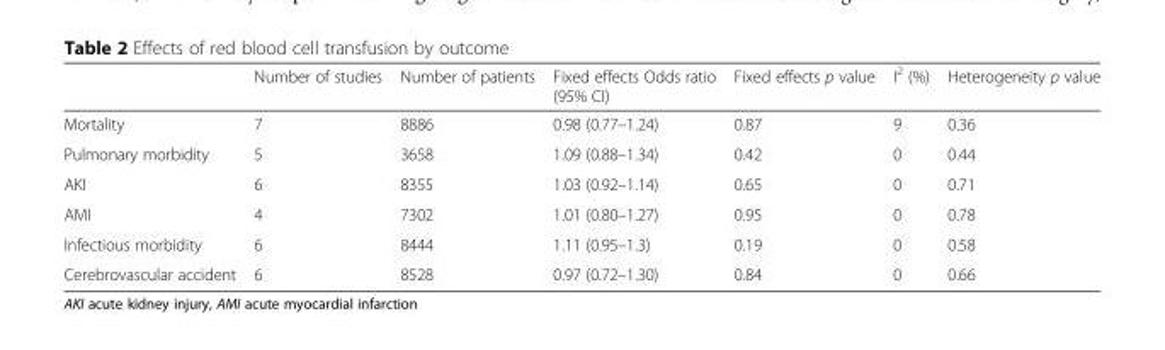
<table><thead><tr><td></td><td>Number of studies</td><td>Number of patients</td><td>Fixed effects Odds ratio (95% CI)</td><td>Fixed effects p value</td><td>I<sup>2</sup> (%)</td><td>Heterogeneity p value</td></tr></thead><tbody><tr><td>Mortality</td><td>7</td><td>8886</td><td>0.98 (0.77–1.24)</td><td>0.87</td><td>9</td><td>0.36</td></tr><tr><td>Pulmonary morbidity</td><td>5</td><td>3658</td><td>1.09 (0.88–1.34)</td><td>0.42</td><td>0</td><td>0.44</td></tr><tr><td>AKI</td><td>6</td><td>8355</td><td>1.03 (0.92–1.14)</td><td>0.65</td><td>0</td><td>0.71</td></tr><tr><td>AMI</td><td>4</td><td>7302</td><td>1.01 (0.80–1.27)</td><td>0.95</td><td>0</td><td>0.78</td></tr><tr><td>Infectious morbidity</td><td>6</td><td>8444</td><td>1.11 (0.95–1.3)</td><td>0.19</td><td>0</td><td>0.58</td></tr><tr><td>Cerebrovascular accident</td><td>6</td><td>8528</td><td>0.97 (0.72–1.30)</td><td>0.84</td><td>0</td><td>0.66</td></tr></tbody></table>